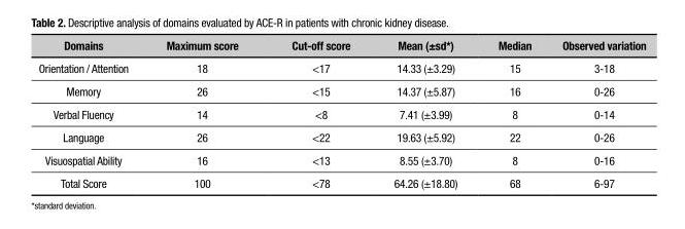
<table><thead><tr><td>Domains</td><td>Maximum score</td><td>Cut-off score</td><td>Mean (±sd*)</td><td>Median</td><td>Observed variation</td></tr></thead><tbody><tr><td>Orientation / Attention</td><td>18</td><td>&lt;17</td><td>14.33 (±3.29)</td><td>15</td><td>3-18</td></tr><tr><td>Memory</td><td>26</td><td>&lt;15</td><td>14.37 (±5.87)</td><td>16</td><td>0-26</td></tr><tr><td>Verbal Fluency</td><td>14</td><td>&lt;8</td><td>7.41 (±3.99)</td><td>8</td><td>0-14</td></tr><tr><td>Language</td><td>26</td><td>&lt;22</td><td>19.63 (±5.92)</td><td>22</td><td>0-26</td></tr><tr><td>Visuospatial Ability</td><td>16</td><td>&lt;13</td><td>8.55 (±3.70)</td><td>8</td><td>0-16</td></tr><tr><td>Total Score</td><td>100</td><td>&lt;78</td><td>64.26 (±18.80)</td><td>68</td><td>6-97</td></tr></tbody></table>